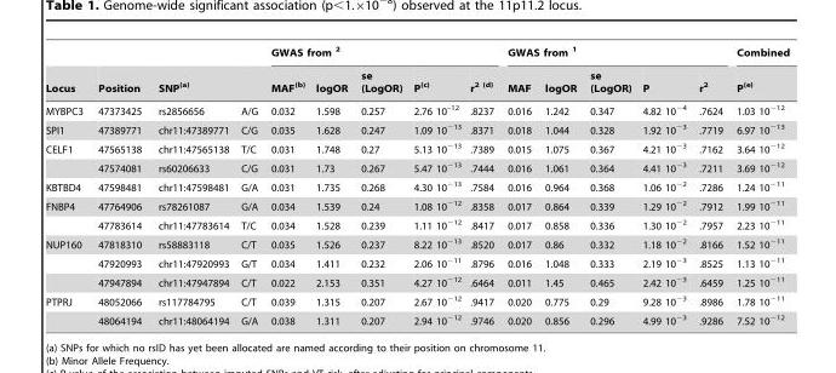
<table><thead><tr><td rowspan="2">Locus</td><td rowspan="2">Position</td><td rowspan="2">SNP<sup>(a)</sup></td><td rowspan="2"></td><td colspan="5">GWAS from <sup>2</sup></td><td colspan="5">GWAS from <sup>1</sup></td><td rowspan="2">Combined P<sup>(e)</sup></td></tr><tr><td>MAF<sup>(b)</sup></td><td>logOR</td><td>se (LogOR)</td><td>P<sup>(c)</sup></td><td>r<sup>2 (d)</sup></td><td>MAF</td><td>logOR</td><td>se (LogOR)</td><td>P</td><td>r<sup>2</sup></td></tr></thead><tbody><tr><td>MYBPC3</td><td>47373425</td><td>rs2856656</td><td>A/G</td><td>0.032</td><td>1.598</td><td>0.257</td><td>2.76 10<sup>–12</sup></td><td>.8237</td><td>0.016</td><td>1.242</td><td>0.347</td><td>4.82 10<sup>−4</sup></td><td>.7624</td><td>1.03 10<sup>−12</sup></td></tr><tr><td>SPI1</td><td>47389771</td><td>chr11:47389771</td><td>C/G</td><td>0.035</td><td>1.628</td><td>0.247</td><td>1.09 10<sup>−13</sup></td><td>.8371</td><td>0.018</td><td>1.044</td><td>0.328</td><td>1.92 10<sup>−3</sup></td><td>.7719</td><td>6.97 10<sup>−13</sup></td></tr><tr><td rowspan="2">CELF1</td><td>47565138</td><td>chr11:47565138</td><td>T/C</td><td>0.031</td><td>1.748</td><td>0.27</td><td>5.13 10<sup>−13</sup></td><td>.7389</td><td>0.015</td><td>1.075</td><td>0.367</td><td>4.21 10<sup>−3</sup></td><td>.7162</td><td>3.64 10<sup>−12</sup></td></tr><tr><td>47574081</td><td>rs60206633</td><td>C/G</td><td>0.031</td><td>1.73</td><td>0.267</td><td>5.47 10<sup>−13</sup></td><td>.7444</td><td>0.016</td><td>1.061</td><td>0.364</td><td>4.41 10<sup>−3</sup></td><td>.7211</td><td>3.69 10<sup>−12</sup></td></tr><tr><td>KBTBD4</td><td>47598481</td><td>chr11:47598481</td><td>G/A</td><td>0.031</td><td>1.735</td><td>0.268</td><td>4.30 10<sup>−13</sup></td><td>.7584</td><td>0.016</td><td>0.964</td><td>0.368</td><td>1.06 10<sup>−2</sup></td><td>.7286</td><td>1.24 10<sup>−11</sup></td></tr><tr><td rowspan="2">FNBP4</td><td>47764906</td><td>rs78261087</td><td>G/A</td><td>0.034</td><td>1.539</td><td>0.24</td><td>1.08 10<sup>−12</sup></td><td>.8358</td><td>0.017</td><td>0.864</td><td>0.339</td><td>1.29 10<sup>−2</sup></td><td>.7912</td><td>1.99 10<sup>−11</sup></td></tr><tr><td>47783614</td><td>chr11:47783614</td><td>T/C</td><td>0.034</td><td>1.528</td><td>0.239</td><td>1.11 10<sup>−12</sup></td><td>.8417</td><td>0.017</td><td>0.858</td><td>0.336</td><td>1.30 10<sup>−2</sup></td><td>.7957</td><td>2.23 10<sup>−11</sup></td></tr><tr><td rowspan="3">NUP160</td><td>47818310</td><td>rs58883118</td><td>C/T</td><td>0.035</td><td>1.526</td><td>0.237</td><td>8.22 10<sup>−13</sup></td><td>.8520</td><td>0.017</td><td>0.86</td><td>0.332</td><td>1.18 10<sup>−2</sup></td><td>.8166</td><td>1.52 10<sup>−11</sup></td></tr><tr><td>47920993</td><td>chr11:47920993</td><td>G/T</td><td>0.034</td><td>1.411</td><td>0.232</td><td>2.06 10<sup>−11</sup></td><td>.8796</td><td>0.016</td><td>1.048</td><td>0.333</td><td>2.19 10<sup>−3</sup></td><td>.8525</td><td>1.13 10<sup>−11</sup></td></tr><tr><td>47947894</td><td>chr11:47947894</td><td>C/T</td><td>0.022</td><td>2.153</td><td>0.351</td><td>4.27 10<sup>−12</sup></td><td>.6464</td><td>0.011</td><td>1.45</td><td>0.465</td><td>2.42 10<sup>−3</sup></td><td>.6459</td><td>1.25 10<sup>−11</sup></td></tr><tr><td rowspan="2">PTPRJ</td><td>48052066</td><td>rs117784795</td><td>C/T</td><td>0.039</td><td>1.315</td><td>0.207</td><td>2.67 10<sup>−12</sup></td><td>.9417</td><td>0.020</td><td>0.775</td><td>0.29</td><td>9.28 10<sup>−3</sup></td><td>.8986</td><td>1.78 10<sup>−11</sup></td></tr><tr><td>48064194</td><td>chr11:48064194</td><td>G/A</td><td>0.038</td><td>1.311</td><td>0.207</td><td>2.94 10<sup>−12</sup></td><td>.9746</td><td>0.020</td><td>0.856</td><td>0.296</td><td>4.99 10<sup>−3</sup></td><td>.9286</td><td>7.52 10<sup>−12</sup></td></tr></tbody></table>